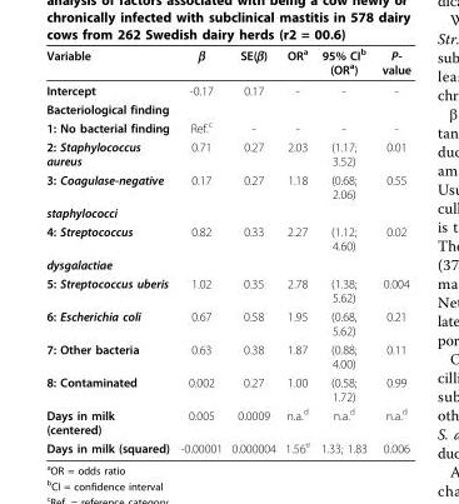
<table><thead><tr><td>Variable</td><td>β</td><td>SE(β)</td><td>OR<sup>a</sup></td><td>95% CI<sup>b</sup> (OR<sup>a</sup>)</td><td>P- value</td></tr></thead><tbody><tr><td>Intercept</td><td>-0.17</td><td>0.17</td><td>-</td><td>-</td><td>-</td></tr><tr><td colspan="6">Bacteriological finding</td></tr><tr><td>1: No bacterial finding</td><td>Ref.<sup>c</sup></td><td>-</td><td>-</td><td>-</td><td>-</td></tr><tr><td>2: Staphylococcus aureus</td><td>0.71</td><td>0.27</td><td>2.03</td><td>(1.17; 3.52)</td><td>0.01</td></tr><tr><td>3: Coagulase-negative</td><td>0.17</td><td>0.27</td><td>1.18</td><td>(0.68; 2.06)</td><td>0.55</td></tr><tr><td colspan="6">staphylococci</td></tr><tr><td>4: Streptococcus</td><td>0.82</td><td>0.33</td><td>2.27</td><td>(1.12; 4.60)</td><td>0.02</td></tr><tr><td colspan="6">dysgalactiae</td></tr><tr><td>5: Streptococcus uberis</td><td>1.02</td><td>0.35</td><td>2.78</td><td>(1.38; 5.62)</td><td>0.004</td></tr><tr><td>6: Escherichia coli</td><td>0.67</td><td>0.58</td><td>1.95</td><td>(0.68, 5.62)</td><td>0.21</td></tr><tr><td>7: Other bacteria</td><td>0.63</td><td>0.38</td><td>1.87</td><td>(0.88; 4.00)</td><td>0.11</td></tr><tr><td>8: Contaminated</td><td>0.002</td><td>0.27</td><td>1.00</td><td>(0.58; 1.72)</td><td>0.99</td></tr><tr><td>Days in milk (centered)</td><td>0.005</td><td>0.0009</td><td>n.a.<sup>d</sup></td><td>n.a.<sup>d</sup></td><td>n.a.<sup>d</sup></td></tr><tr><td>Days in milk (squared)</td><td>-0.00001</td><td>0.000004</td><td>1.56<sup>e</sup></td><td>1.33; 1.83</td><td>0.006</td></tr></tbody></table>